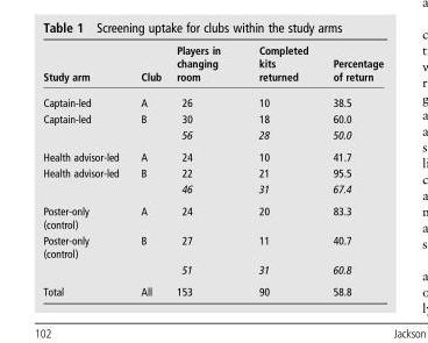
<table><thead><tr><td>Study arm</td><td>Club</td><td>Players in changing room</td><td>Completed kits returned</td><td>Percentage of return</td></tr></thead><tbody><tr><td>Captain-led</td><td>A</td><td>26</td><td>10</td><td>38.5</td></tr><tr><td rowspan="2">Captain-led</td><td>B</td><td>30</td><td>18</td><td>60.0</td></tr><tr><td></td><td>56</td><td>28</td><td>50.0</td></tr><tr><td>Health advisor-led</td><td>A</td><td>24</td><td>10</td><td>41.7</td></tr><tr><td rowspan="2">Health advisor-led</td><td>B</td><td>22</td><td>21</td><td>95.5</td></tr><tr><td></td><td>46</td><td>31</td><td>67.4</td></tr><tr><td>Poster-only (control)</td><td>A</td><td>24</td><td>20</td><td>83.3</td></tr><tr><td rowspan="2">Poster-only (control)</td><td>B</td><td>27</td><td>11</td><td>40.7</td></tr><tr><td></td><td>51</td><td>31</td><td>60.8</td></tr><tr><td>Total</td><td>All</td><td>153</td><td>90</td><td>58.8</td></tr></tbody></table>